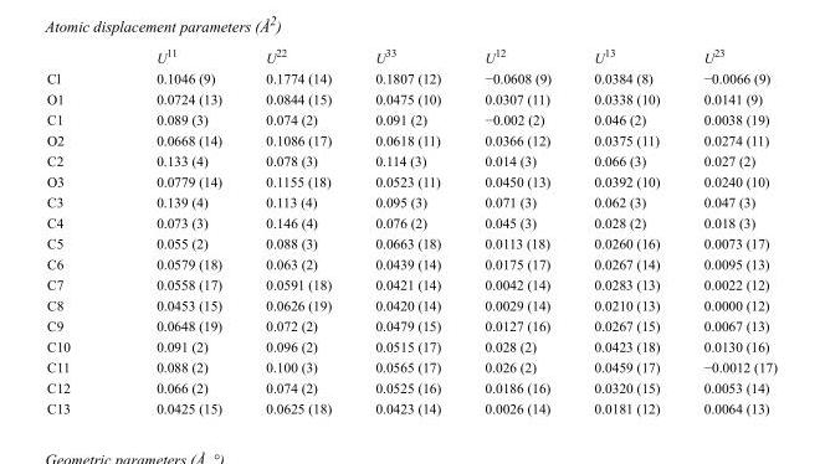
<table><thead><tr><td></td><td>U<sup>11</sup></td><td>U<sup>22</sup></td><td>U<sup>33</sup></td><td>U<sup>12</sup></td><td>U<sup>13</sup></td><td>U<sup>23</sup></td></tr></thead><tbody><tr><td>Cl</td><td>0.1046 (9)</td><td>0.1774 (14)</td><td>0.1807 (12)</td><td>−0.0608 (9)</td><td>0.0384 (8)</td><td>−0.0066 (9)</td></tr><tr><td>O1</td><td>0.0724 (13)</td><td>0.0844 (15)</td><td>0.0475 (10)</td><td>0.0307 (11)</td><td>0.0338 (10)</td><td>0.0141 (9)</td></tr><tr><td>C1</td><td>0.089 (3)</td><td>0.074 (2)</td><td>0.091 (2)</td><td>−0.002 (2)</td><td>0.046 (2)</td><td>0.0038 (19)</td></tr><tr><td>O2</td><td>0.0668 (14)</td><td>0.1086 (17)</td><td>0.0618 (11)</td><td>0.0366 (12)</td><td>0.0375 (11)</td><td>0.0274 (11)</td></tr><tr><td>C2</td><td>0.133 (4)</td><td>0.078 (3)</td><td>0.114 (3)</td><td>0.014 (3)</td><td>0.066 (3)</td><td>0.027 (2)</td></tr><tr><td>O3</td><td>0.0779 (14)</td><td>0.1155 (18)</td><td>0.0523 (11)</td><td>0.0450 (13)</td><td>0.0392 (10)</td><td>0.0240 (10)</td></tr><tr><td>C3</td><td>0.139 (4)</td><td>0.113 (4)</td><td>0.095 (3)</td><td>0.071 (3)</td><td>0.062 (3)</td><td>0.047 (3)</td></tr><tr><td>C4</td><td>0.073 (3)</td><td>0.146 (4)</td><td>0.076 (2)</td><td>0.045 (3)</td><td>0.028 (2)</td><td>0.018 (3)</td></tr><tr><td>C5</td><td>0.055 (2)</td><td>0.088 (3)</td><td>0.0663 (18)</td><td>0.0113 (18)</td><td>0.0260 (16)</td><td>0.0073 (17)</td></tr><tr><td>C6</td><td>0.0579 (18)</td><td>0.063 (2)</td><td>0.0439 (14)</td><td>0.0175 (17)</td><td>0.0267 (14)</td><td>0.0095 (13)</td></tr><tr><td>C7</td><td>0.0558 (17)</td><td>0.0591 (18)</td><td>0.0421 (14)</td><td>0.0042 (14)</td><td>0.0283 (13)</td><td>0.0022 (12)</td></tr><tr><td>C8</td><td>0.0453 (15)</td><td>0.0626 (19)</td><td>0.0420 (14)</td><td>0.0029 (14)</td><td>0.0210 (13)</td><td>0.0000 (12)</td></tr><tr><td>C9</td><td>0.0648 (19)</td><td>0.072 (2)</td><td>0.0479 (15)</td><td>0.0127 (16)</td><td>0.0267 (15)</td><td>0.0067 (13)</td></tr><tr><td>C10</td><td>0.091 (2)</td><td>0.096 (2)</td><td>0.0515 (17)</td><td>0.028 (2)</td><td>0.0423 (18)</td><td>0.0130 (16)</td></tr><tr><td>C11</td><td>0.088 (2)</td><td>0.100 (3)</td><td>0.0565 (17)</td><td>0.026 (2)</td><td>0.0459 (17)</td><td>−0.0012 (17)</td></tr><tr><td>C12</td><td>0.066 (2)</td><td>0.074 (2)</td><td>0.0525 (16)</td><td>0.0186 (16)</td><td>0.0320 (15)</td><td>0.0053 (14)</td></tr><tr><td>C13</td><td>0.0425 (15)</td><td>0.0625 (18)</td><td>0.0423 (14)</td><td>0.0026 (14)</td><td>0.0181 (12)</td><td>0.0064 (13)</td></tr></tbody></table>